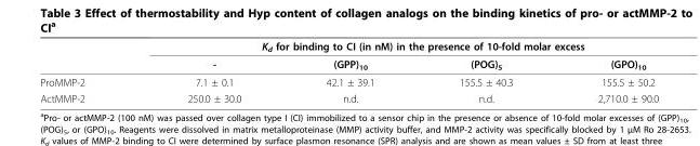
<table><thead><tr><td rowspan="2"></td><td colspan="4">K<sub>d</sub> for binding to CI (in nM) in the presence of 10-fold molar excess</td></tr><tr><td>-</td><td>(GPP)<sub>10</sub></td><td>(POG)<sub>5</sub></td><td>(GPO)<sub>10</sub></td></tr></thead><tbody><tr><td>ProMMP-2</td><td>7.1 ± 0.1</td><td>42.1 ± 39.1</td><td>155.5 ± 40.3</td><td>155.5 ± 50.2</td></tr><tr><td>ActMMP-2</td><td>250.0 ± 30.0</td><td>n.d.</td><td>n.d.</td><td>2,710.0 ± 90.0</td></tr></tbody></table>